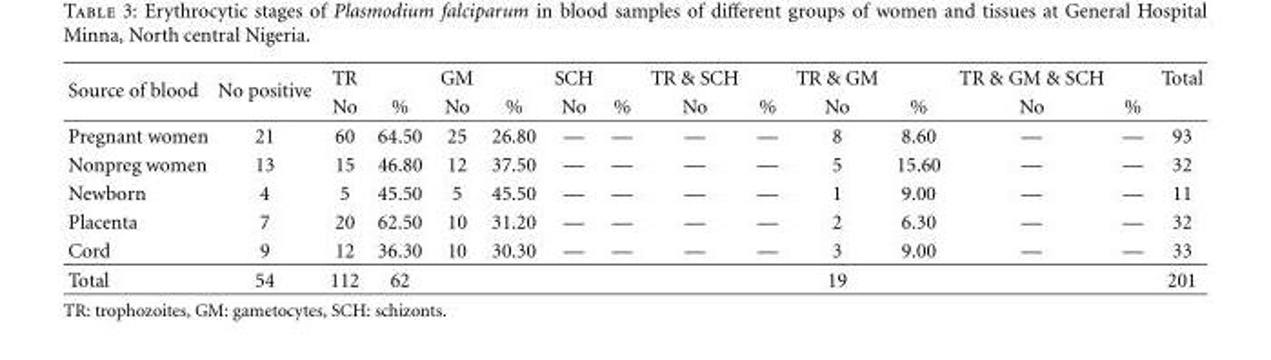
<table><thead><tr><td rowspan="2">Source of blood</td><td rowspan="2">No positive</td><td rowspan="2">TR No</td><td rowspan="2">%</td><td rowspan="2">GM No</td><td rowspan="2">%</td><td rowspan="2">SCH No</td><td rowspan="2">%</td><td rowspan="2">TR &amp; SCH No</td><td rowspan="2">%</td><td rowspan="2">TR &amp; GM No</td><td rowspan="2">%</td><td rowspan="2">TR &amp; GM &amp; SCH No</td><td rowspan="2">%</td><td rowspan="2">Total</td></tr><tr></tr></thead><tbody><tr><td>Pregnant women</td><td>21</td><td>60</td><td>64.50</td><td>25</td><td>26.80</td><td>—</td><td>—</td><td>—</td><td>—</td><td>8</td><td>8.60</td><td>—</td><td>—</td><td>93</td></tr><tr><td>Nonpreg women</td><td>13</td><td>15</td><td>46.80</td><td>12</td><td>37.50</td><td>—</td><td>—</td><td>—</td><td>—</td><td>5</td><td>15.60</td><td>—</td><td>—</td><td>32</td></tr><tr><td>Newborn</td><td>4</td><td>5</td><td>45.50</td><td>5</td><td>45.50</td><td>—</td><td>—</td><td>—</td><td>—</td><td>1</td><td>9.00</td><td>—</td><td>—</td><td>11</td></tr><tr><td>Placenta</td><td>7</td><td>20</td><td>62.50</td><td>10</td><td>31.20</td><td>—</td><td>—</td><td>—</td><td>—</td><td>2</td><td>6.30</td><td>—</td><td>—</td><td>32</td></tr><tr><td>Cord</td><td>9</td><td>12</td><td>36.30</td><td>10</td><td>30.30</td><td>—</td><td>—</td><td>—</td><td>—</td><td>3</td><td>9.00</td><td>—</td><td>—</td><td>33</td></tr><tr><td>Total</td><td>54</td><td>112</td><td>62</td><td></td><td></td><td></td><td></td><td></td><td></td><td>19</td><td></td><td></td><td></td><td>201</td></tr></tbody></table>